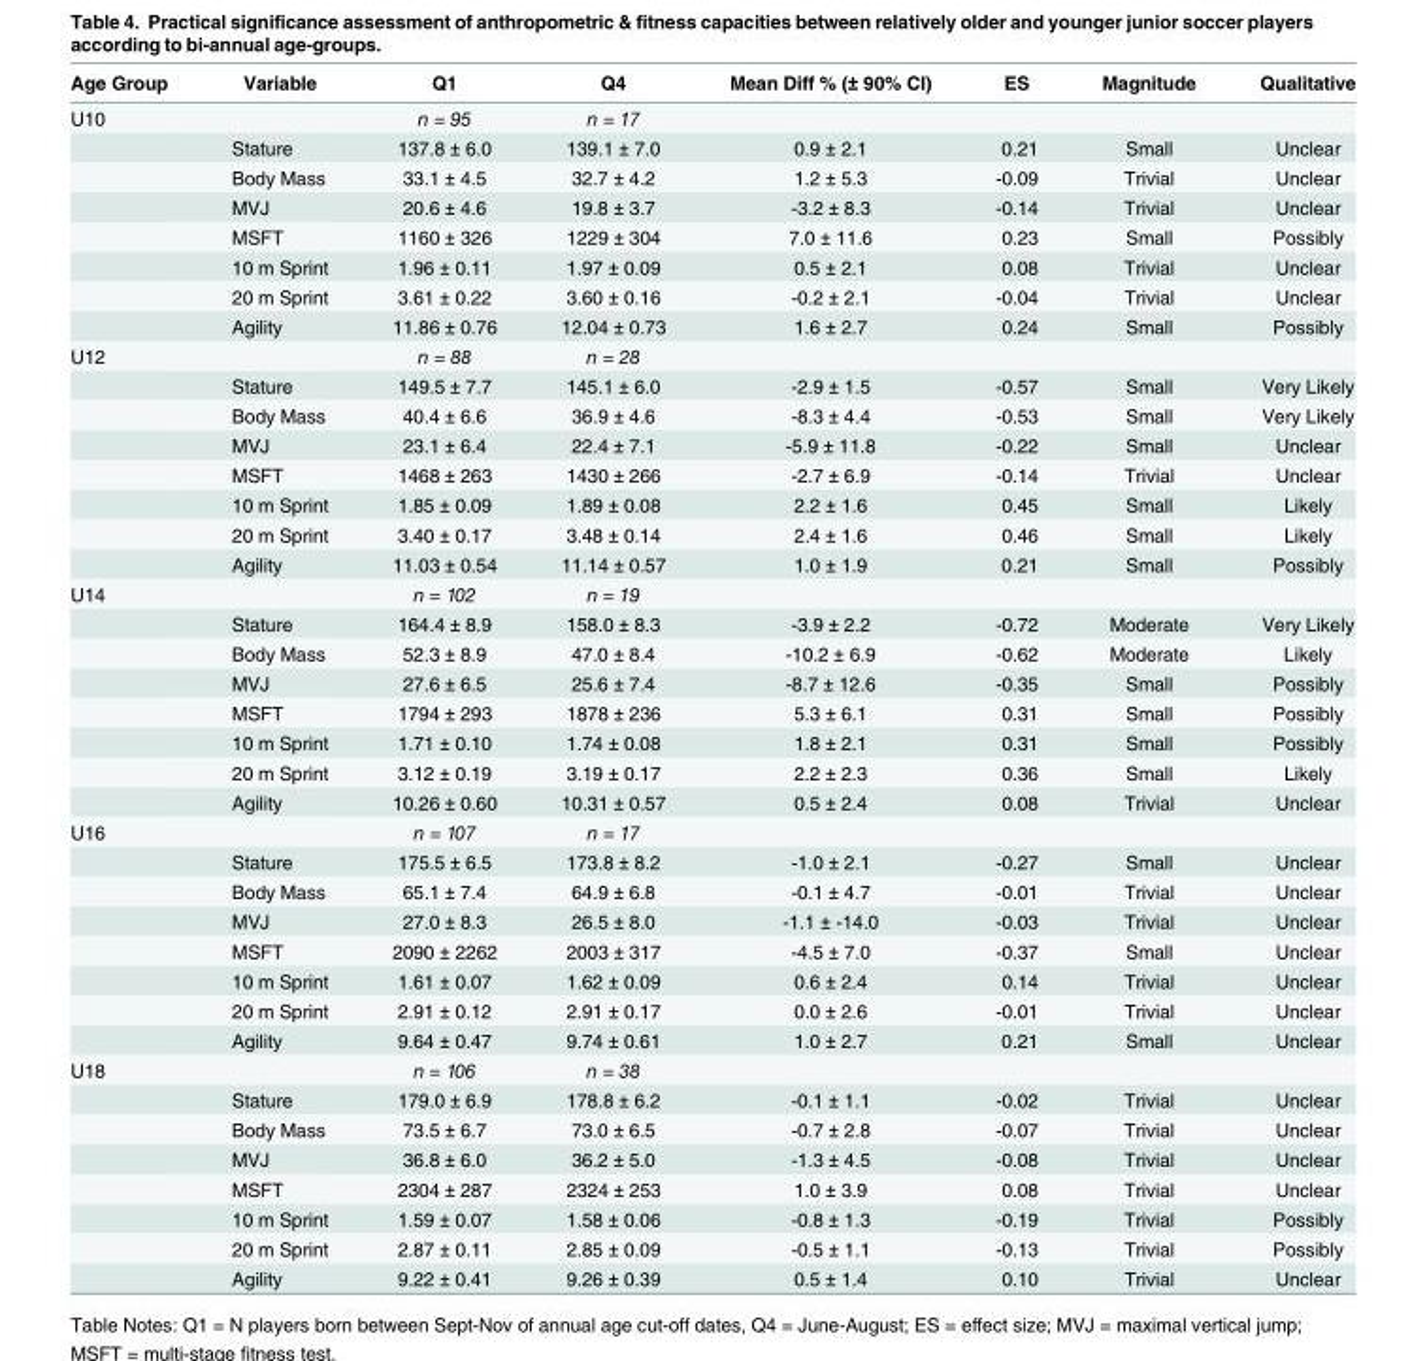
<table><thead><tr><td>Age Group</td><td>Variable</td><td>Q1</td><td>Q4</td><td>Mean Diff % (± 90% CI)</td><td>ES</td><td>Magnitude</td><td>Qualitative</td></tr></thead><tbody><tr><td rowspan="8">U10</td><td></td><td>n = 95</td><td>n = 17</td><td></td><td></td><td></td><td></td></tr><tr><td>Stature</td><td>137.8 ± 6.0</td><td>139.1 ± 7.0</td><td>0.9 ± 2.1</td><td>0.21</td><td>Small</td><td>Unclear</td></tr><tr><td>Body Mass</td><td>33.1 ± 4.5</td><td>32.7 ± 4.2</td><td>1.2 ± 5.3</td><td>-0.09</td><td>Trivial</td><td>Unclear</td></tr><tr><td>MVJ</td><td>20.6 ± 4.6</td><td>19.8 ± 3.7</td><td>-3.2 ± 8.3</td><td>-0.14</td><td>Trivial</td><td>Unclear</td></tr><tr><td>MSFT</td><td>1160 ± 326</td><td>1229 ± 304</td><td>7.0 ± 11.6</td><td>0.23</td><td>Small</td><td>Possibly</td></tr><tr><td>10 m Sprint</td><td>1.96 ± 0.11</td><td>1.97 ± 0.09</td><td>0.5 ± 2.1</td><td>0.08</td><td>Trivial</td><td>Unclear</td></tr><tr><td>20 m Sprint</td><td>3.61 ± 0.22</td><td>3.60 ± 0.16</td><td>-0.2 ± 2.1</td><td>-0.04</td><td>Trivial</td><td>Unclear</td></tr><tr><td>Agility</td><td>11.86 ± 0.76</td><td>12.04 ± 0.73</td><td>1.6 ± 2.7</td><td>0.24</td><td>Small</td><td>Possibly</td></tr><tr><td rowspan="8">U12</td><td></td><td>n = 88</td><td>n = 28</td><td></td><td></td><td></td><td></td></tr><tr><td>Stature</td><td>149.5 ± 7.7</td><td>145.1 ± 6.0</td><td>-2.9 ± 1.5</td><td>-0.57</td><td>Small</td><td>Very Likely</td></tr><tr><td>Body Mass</td><td>40.4 ± 6.6</td><td>36.9 ± 4.6</td><td>-8.3 ± 4.4</td><td>-0.53</td><td>Small</td><td>Very Likely</td></tr><tr><td>MVJ</td><td>23.1 ± 6.4</td><td>22.4 ± 7.1</td><td>-5.9 ± 11.8</td><td>-0.22</td><td>Small</td><td>Unclear</td></tr><tr><td>MSFT</td><td>1468 ± 263</td><td>1430 ± 266</td><td>-2.7 ± 6.9</td><td>-0.14</td><td>Trivial</td><td>Unclear</td></tr><tr><td>10 m Sprint</td><td>1.85 ± 0.09</td><td>1.89 ± 0.08</td><td>2.2 ± 1.6</td><td>0.45</td><td>Small</td><td>Likely</td></tr><tr><td>20 m Sprint</td><td>3.40 ± 0.17</td><td>3.48 ± 0.14</td><td>2.4 ± 1.6</td><td>0.46</td><td>Small</td><td>Likely</td></tr><tr><td>Agility</td><td>11.03 ± 0.54</td><td>11.14 ± 0.57</td><td>1.0 ± 1.9</td><td>0.21</td><td>Small</td><td>Possibly</td></tr><tr><td rowspan="8">U14</td><td></td><td>n = 102</td><td>n = 19</td><td></td><td></td><td></td><td></td></tr><tr><td>Stature</td><td>164.4 ± 8.9</td><td>158.0 ± 8.3</td><td>-3.9 ± 2.2</td><td>-0.72</td><td>Moderate</td><td>Very Likely</td></tr><tr><td>Body Mass</td><td>52.3 ± 8.9</td><td>47.0 ± 8.4</td><td>-10.2 ± 6.9</td><td>-0.62</td><td>Moderate</td><td>Likely</td></tr><tr><td>MVJ</td><td>27.6 ± 6.5</td><td>25.6 ± 7.4</td><td>-8.7 ± 12.6</td><td>-0.35</td><td>Small</td><td>Possibly</td></tr><tr><td>MSFT</td><td>1794 ± 293</td><td>1878 ± 236</td><td>5.3 ± 6.1</td><td>0.31</td><td>Small</td><td>Possibly</td></tr><tr><td>10 m Sprint</td><td>1.71 ± 0.10</td><td>1.74 ± 0.08</td><td>1.8 ± 2.1</td><td>0.31</td><td>Small</td><td>Possibly</td></tr><tr><td>20 m Sprint</td><td>3.12 ± 0.19</td><td>3.19 ± 0.17</td><td>2.2 ± 2.3</td><td>0.36</td><td>Small</td><td>Likely</td></tr><tr><td>Agility</td><td>10.26 ± 0.60</td><td>10.31 ± 0.57</td><td>0.5 ± 2.4</td><td>0.08</td><td>Trivial</td><td>Unclear</td></tr><tr><td rowspan="8">U16</td><td></td><td>n = 107</td><td>n = 17</td><td></td><td></td><td></td><td></td></tr><tr><td>Stature</td><td>175.5 ± 6.5</td><td>173.8 ± 8.2</td><td>-1.0 ± 2.1</td><td>-0.27</td><td>Small</td><td>Unclear</td></tr><tr><td>Body Mass</td><td>65.1 ± 7.4</td><td>64.9 ± 6.8</td><td>-0.1 ± 4.7</td><td>-0.01</td><td>Trivial</td><td>Unclear</td></tr><tr><td>MVJ</td><td>27.0 ± 8.3</td><td>26.5 ± 8.0</td><td>-1.1 ± -14.0</td><td>-0.03</td><td>Trivial</td><td>Unclear</td></tr><tr><td>MSFT</td><td>2090 ± 2262</td><td>2003 ± 317</td><td>-4.5 ± 7.0</td><td>-0.37</td><td>Small</td><td>Unclear</td></tr><tr><td>10 m Sprint</td><td>1.61 ± 0.07</td><td>1.62 ± 0.09</td><td>0.6 ± 2.4</td><td>0.14</td><td>Trivial</td><td>Unclear</td></tr><tr><td>20 m Sprint</td><td>2.91 ± 0.12</td><td>2.91 ± 0.17</td><td>0.0 ± 2.6</td><td>-0.01</td><td>Trivial</td><td>Unclear</td></tr><tr><td>Agility</td><td>9.64 ± 0.47</td><td>9.74 ± 0.61</td><td>1.0 ± 2.7</td><td>0.21</td><td>Small</td><td>Unclear</td></tr><tr><td rowspan="8">U18</td><td></td><td>n = 106</td><td>n = 38</td><td></td><td></td><td></td><td></td></tr><tr><td>Stature</td><td>179.0 ± 6.9</td><td>178.8 ± 6.2</td><td>-0.1 ± 1.1</td><td>-0.02</td><td>Trivial</td><td>Unclear</td></tr><tr><td>Body Mass</td><td>73.5 ± 6.7</td><td>73.0 ± 6.5</td><td>-0.7 ± 2.8</td><td>-0.07</td><td>Trivial</td><td>Unclear</td></tr><tr><td>MVJ</td><td>36.8 ± 6.0</td><td>36.2 ± 5.0</td><td>-1.3 ± 4.5</td><td>-0.08</td><td>Trivial</td><td>Unclear</td></tr><tr><td>MSFT</td><td>2304 ± 287</td><td>2324 ± 253</td><td>1.0 ± 3.9</td><td>0.08</td><td>Trivial</td><td>Unclear</td></tr><tr><td>10 m Sprint</td><td>1.59 ± 0.07</td><td>1.58 ± 0.06</td><td>-0.8 ± 1.3</td><td>-0.19</td><td>Trivial</td><td>Possibly</td></tr><tr><td>20 m Sprint</td><td>2.87 ± 0.11</td><td>2.85 ± 0.09</td><td>-0.5 ± 1.1</td><td>-0.13</td><td>Trivial</td><td>Possibly</td></tr><tr><td>Agility</td><td>9.22 ± 0.41</td><td>9.26 ± 0.39</td><td>0.5 ± 1.4</td><td>0.10</td><td>Trivial</td><td>Unclear</td></tr></tbody></table>